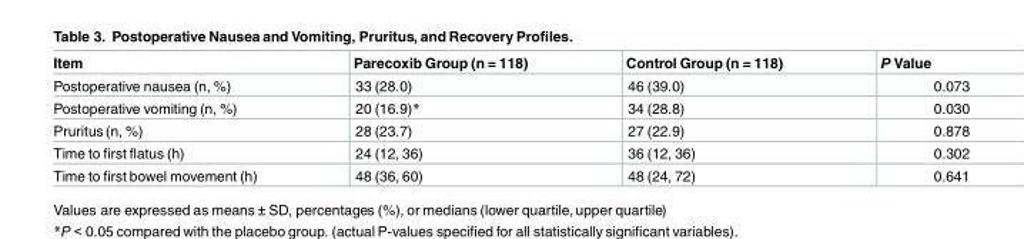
<table><thead><tr><td>Item</td><td>Parecoxib Group (n = 118)</td><td>Control Group (n = 118)</td><td>P Value</td></tr></thead><tbody><tr><td>Postoperative nausea (n, %)</td><td>33 (28.0)</td><td>46 (39.0)</td><td>0.073</td></tr><tr><td>Postoperative vomiting (n, %)</td><td>20 (16.9)*</td><td>34 (28.8)</td><td>0.030</td></tr><tr><td>Pruritus (n, %)</td><td>28 (23.7)</td><td>27 (22.9)</td><td>0.878</td></tr><tr><td>Time to first flatus (h)</td><td>24 (12, 36)</td><td>36 (12, 36)</td><td>0.302</td></tr><tr><td>Time to first bowel movement (h)</td><td>48 (36, 60)</td><td>48 (24, 72)</td><td>0.641</td></tr></tbody></table>